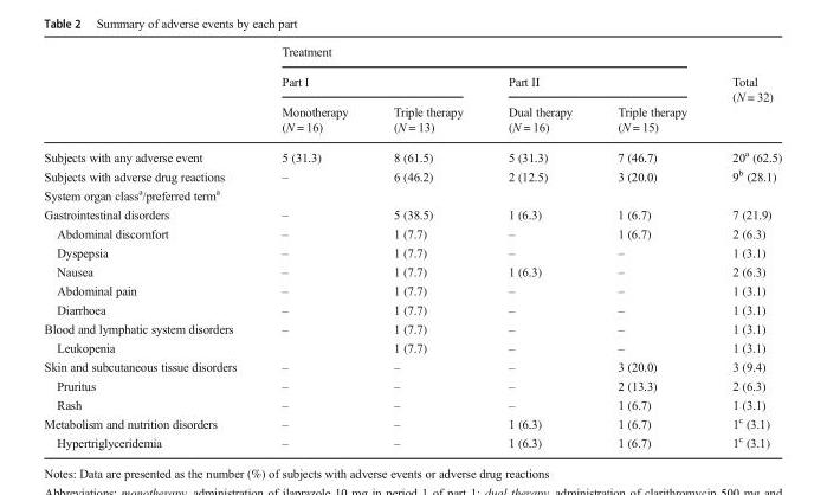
<table><thead><tr><td rowspan="3"></td><td colspan="4">Treatment</td><td rowspan="3">Total (N = 32)</td></tr><tr><td colspan="2">Part I</td><td colspan="2">Part II</td></tr><tr><td>Monotherapy (N = 16)</td><td>Triple therapy (N = 13)</td><td>Dual therapy (N = 16)</td><td>Triple therapy (N = 15)</td></tr></thead><tbody><tr><td>Subjects with any adverse event</td><td>5 (31.3)</td><td>8 (61.5)</td><td>5 (31.3)</td><td>7 (46.7)</td><td>20<sup>a</sup> (62.5)</td></tr><tr><td>Subjects with adverse drug reactions</td><td>–</td><td>6 (46.2)</td><td>2 (12.5)</td><td>3 (20.0)</td><td>9<sup>b</sup> (28.1)</td></tr><tr><td colspan="6">System organ class<sup>a</sup>/preferred term<sup>a</sup></td></tr><tr><td>Gastrointestinal disorders</td><td>–</td><td>5 (38.5)</td><td>1 (6.3)</td><td>1 (6.7)</td><td>7 (21.9)</td></tr><tr><td>Abdominal discomfort</td><td>–</td><td>1 (7.7)</td><td>–</td><td>1 (6.7)</td><td>2 (6.3)</td></tr><tr><td>Dyspepsia</td><td>–</td><td>1 (7.7)</td><td>–</td><td>–</td><td>1 (3.1)</td></tr><tr><td>Nausea</td><td>–</td><td>1 (7.7)</td><td>1 (6.3)</td><td>–</td><td>2 (6.3)</td></tr><tr><td>Abdominal pain</td><td>–</td><td>1 (7.7)</td><td>–</td><td>–</td><td>1 (3.1)</td></tr><tr><td>Diarrhoea</td><td>–</td><td>1 (7.7)</td><td>–</td><td>–</td><td>1 (3.1)</td></tr><tr><td>Blood and lymphatic system disorders</td><td>–</td><td>1 (7.7)</td><td>–</td><td>–</td><td>1 (3.1)</td></tr><tr><td>Leukopenia</td><td></td><td>1 (7.7)</td><td>–</td><td>–</td><td>1 (3.1)</td></tr><tr><td>Skin and subcutaneous tissue disorders</td><td>–</td><td>–</td><td>–</td><td>3 (20.0)</td><td>3 (9.4)</td></tr><tr><td>Pruritus</td><td>–</td><td>–</td><td>–</td><td>2 (13.3)</td><td>2 (6.3)</td></tr><tr><td>Rash</td><td>–</td><td>–</td><td>–</td><td>1 (6.7)</td><td>1 (3.1)</td></tr><tr><td>Metabolism and nutrition disorders</td><td>–</td><td>–</td><td>1 (6.3)</td><td>1 (6.7)</td><td>1<sup>c</sup> (3.1)</td></tr><tr><td>Hypertriglyceridemia</td><td>–</td><td>–</td><td>1 (6.3)</td><td>1 (6.7)</td><td>1<sup>c</sup> (3.1)</td></tr></tbody></table>